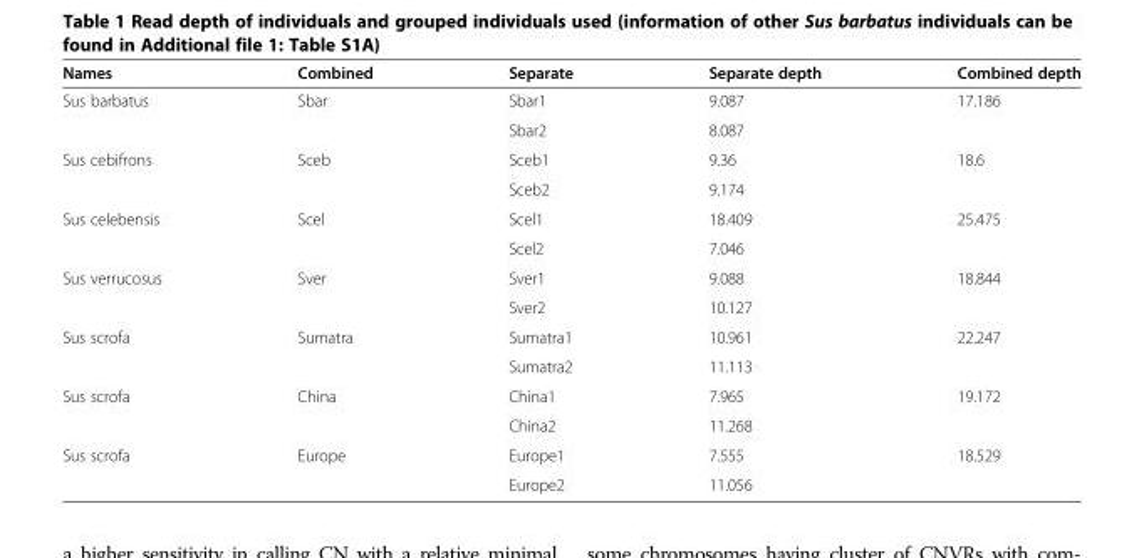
<table><thead><tr><td>Names</td><td>Combined</td><td>Separate</td><td>Separate depth</td><td>Combined depth</td></tr></thead><tbody><tr><td rowspan="2">Sus barbatus</td><td>Sbar</td><td>Sbar1</td><td>9.087</td><td>17.186</td></tr><tr><td></td><td>Sbar2</td><td>8.087</td><td></td></tr><tr><td rowspan="2">Sus cebifrons</td><td>Sceb</td><td>Sceb1</td><td>9.36</td><td>18.6</td></tr><tr><td></td><td>Sceb2</td><td>9.174</td><td></td></tr><tr><td rowspan="2">Sus celebensis</td><td>Scel</td><td>Scel1</td><td>18.409</td><td>25.475</td></tr><tr><td></td><td>Scel2</td><td>7.046</td><td></td></tr><tr><td rowspan="2">Sus verrucosus</td><td>Sver</td><td>Sver1</td><td>9.088</td><td>18.844</td></tr><tr><td></td><td>Sver2</td><td>10.127</td><td></td></tr><tr><td rowspan="2">Sus scrofa</td><td>Sumatra</td><td>Sumatra1</td><td>10.961</td><td>22.247</td></tr><tr><td></td><td>Sumatra2</td><td>11.113</td><td></td></tr><tr><td rowspan="2">Sus scrofa</td><td>China</td><td>China1</td><td>7.965</td><td>19.172</td></tr><tr><td></td><td>China2</td><td>11.268</td><td></td></tr><tr><td rowspan="2">Sus scrofa</td><td>Europe</td><td>Europe1</td><td>7.555</td><td>18.529</td></tr><tr><td></td><td>Europe2</td><td>11.056</td><td></td></tr></tbody></table>